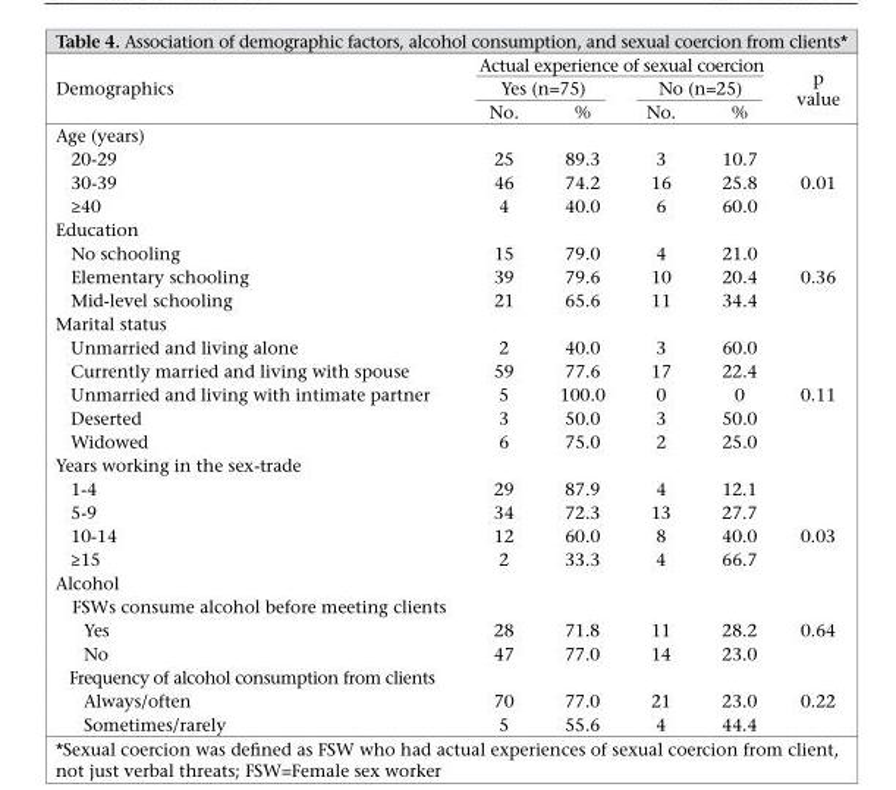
<table><thead><tr><td rowspan="3">Demographics</td><td colspan="4">Actual experience of sexual coercion</td><td rowspan="3">p value</td></tr><tr><td colspan="2">Yes (n=75)</td><td colspan="2">No (n=25)</td></tr><tr><td>No.</td><td>%</td><td>No.</td><td>%</td></tr></thead><tbody><tr><td colspan="6">Age (years)</td></tr><tr><td>20-29</td><td>25</td><td>89.3</td><td>3</td><td>10.7</td><td></td></tr><tr><td>30-39</td><td>46</td><td>74.2</td><td>16</td><td>25.8</td><td>0.01</td></tr><tr><td>≥40</td><td>4</td><td>40.0</td><td>6</td><td>60.0</td><td></td></tr><tr><td colspan="6">Education</td></tr><tr><td>No schooling</td><td>15</td><td>79.0</td><td>4</td><td>21.0</td><td></td></tr><tr><td>Elementary schooling</td><td>39</td><td>79.6</td><td>10</td><td>20.4</td><td>0.36</td></tr><tr><td>Mid-level schooling</td><td>21</td><td>65.6</td><td>11</td><td>34.4</td><td></td></tr><tr><td colspan="6">Marital status</td></tr><tr><td>Unmarried and living alone</td><td>2</td><td>40.0</td><td>3</td><td>60.0</td><td></td></tr><tr><td>Currently married and living with spouse</td><td>59</td><td>77.6</td><td>17</td><td>22.4</td><td></td></tr><tr><td>Unmarried and living with intimate partner</td><td>5</td><td>100.0</td><td>0</td><td>0</td><td>0.11</td></tr><tr><td>Deserted</td><td>3</td><td>50.0</td><td>3</td><td>50.0</td><td></td></tr><tr><td>Widowed</td><td>6</td><td>75.0</td><td>2</td><td>25.0</td><td></td></tr><tr><td colspan="6">Years working in the sex-trade</td></tr><tr><td>1-4</td><td>29</td><td>87.9</td><td>4</td><td>12.1</td><td></td></tr><tr><td>5-9</td><td>34</td><td>72.3</td><td>13</td><td>27.7</td><td></td></tr><tr><td>10-14</td><td>12</td><td>60.0</td><td>8</td><td>40.0</td><td>0.03</td></tr><tr><td>≥15</td><td>2</td><td>33.3</td><td>4</td><td>66.7</td><td></td></tr><tr><td colspan="6">Alcohol</td></tr><tr><td colspan="6">FSWs consume alcohol before meeting clients</td></tr><tr><td>Yes</td><td>28</td><td>71.8</td><td>11</td><td>28.2</td><td>0.64</td></tr><tr><td>No</td><td>47</td><td>77.0</td><td>14</td><td>23.0</td><td></td></tr><tr><td colspan="6">Frequency of alcohol consumption from clients</td></tr><tr><td>Always/often</td><td>70</td><td>77.0</td><td>21</td><td>23.0</td><td>0.22</td></tr><tr><td>Sometimes/rarely</td><td>5</td><td>55.6</td><td>4</td><td>44.4</td><td></td></tr></tbody></table>